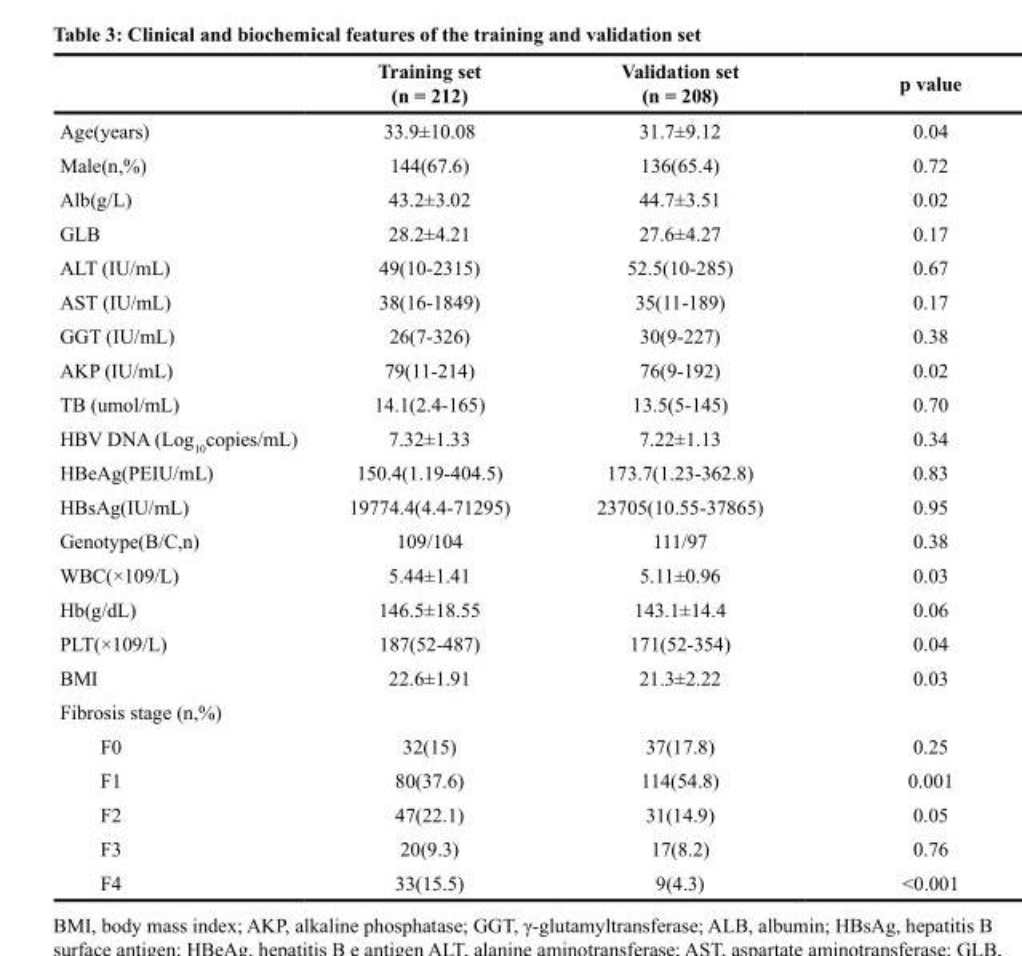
<table><thead><tr><td></td><td>Training set (n = 212)</td><td>Validation set (n = 208)</td><td>p value</td></tr></thead><tbody><tr><td>Age(years)</td><td>33.9±10.08</td><td>31.7±9.12</td><td>0.04</td></tr><tr><td>Male(n,%)</td><td>144(67.6)</td><td>136(65.4)</td><td>0.72</td></tr><tr><td>Alb(g/L)</td><td>43.2±3.02</td><td>44.7±3.51</td><td>0.02</td></tr><tr><td>GLB</td><td>28.2±4.21</td><td>27.6±4.27</td><td>0.17</td></tr><tr><td>ALT (IU/mL)</td><td>49(10-2315)</td><td>52.5(10-285)</td><td>0.67</td></tr><tr><td>AST (IU/mL)</td><td>38(16-1849)</td><td>35(11-189)</td><td>0.17</td></tr><tr><td>GGT (IU/mL)</td><td>26(7-326)</td><td>30(9-227)</td><td>0.38</td></tr><tr><td>AKP (IU/mL)</td><td>79(11-214)</td><td>76(9-192)</td><td>0.02</td></tr><tr><td>TB (umol/mL)</td><td>14.1(2.4-165)</td><td>13.5(5-145)</td><td>0.70</td></tr><tr><td>HBV DNA (Log<sub>10</sub>copies/mL)</td><td>7.32±1.33</td><td>7.22±1.13</td><td>0.34</td></tr><tr><td>HBeAg(PEIU/mL)</td><td>150.4(1.19-404.5)</td><td>173.7(1.23-362.8)</td><td>0.83</td></tr><tr><td>HBsAg(IU/mL)</td><td>19774.4(4.4-71295)</td><td>23705(10.55-37865)</td><td>0.95</td></tr><tr><td>Genotype(B/C,n)</td><td>109/104</td><td>111/97</td><td>0.38</td></tr><tr><td>WBC(×109/L)</td><td>5.44±1.41</td><td>5.11±0.96</td><td>0.03</td></tr><tr><td>Hb(g/dL)</td><td>146.5±18.55</td><td>143.1±14.4</td><td>0.06</td></tr><tr><td>PLT(×109/L)</td><td>187(52-487)</td><td>171(52-354)</td><td>0.04</td></tr><tr><td>BMI</td><td>22.6±1.91</td><td>21.3±2.22</td><td>0.03</td></tr><tr><td colspan="4">Fibrosis stage (n,%)</td></tr><tr><td>F0</td><td>32(15)</td><td>37(17.8)</td><td>0.25</td></tr><tr><td>F1</td><td>80(37.6)</td><td>114(54.8)</td><td>0.001</td></tr><tr><td>F2</td><td>47(22.1)</td><td>31(14.9)</td><td>0.05</td></tr><tr><td>F3</td><td>20(9.3)</td><td>17(8.2)</td><td>0.76</td></tr><tr><td>F4</td><td>33(15.5)</td><td>9(4.3)</td><td>&lt;0.001</td></tr></tbody></table>